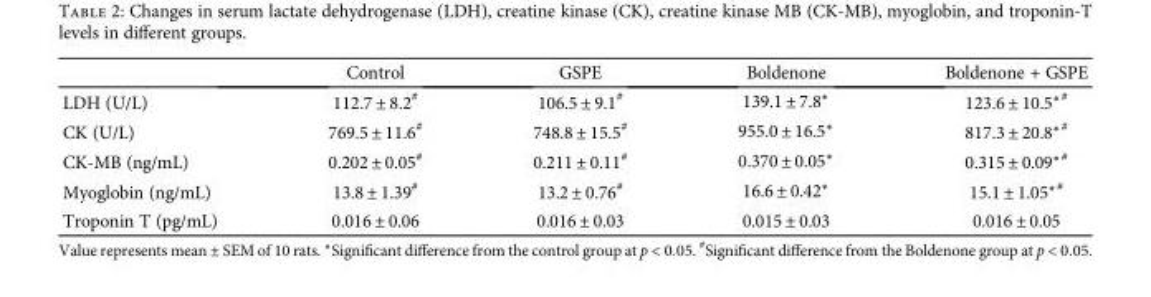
<table><thead><tr><td></td><td>Control</td><td>GSPE</td><td>Boldenone</td><td>Boldenone + GSPE</td></tr></thead><tbody><tr><td>LDH (U/L)</td><td>112.7 ± 8.2<sup>#</sup></td><td>106.5 ± 9.1<sup>#</sup></td><td>139.1 ± 7.8∗</td><td>123.6 ± 10.5<sup>∗#</sup></td></tr><tr><td>CK (U/L)</td><td>769.5 ± 11.6<sup>#</sup></td><td>748.8 ± 15.5<sup>#</sup></td><td>955.0 ± 16.5∗</td><td>817.3 ± 20.8<sup>∗#</sup></td></tr><tr><td>CK-MB (ng/mL)</td><td>0.202 ± 0.05<sup>#</sup></td><td>0.211 ± 0.11<sup>#</sup></td><td>0.370 ± 0.05∗</td><td>0.315 ± 0.09<sup>∗#</sup></td></tr><tr><td>Myoglobin (ng/mL)</td><td>13.8 ± 1.39<sup>#</sup></td><td>13.2 ± 0.76<sup>#</sup></td><td>16.6 ± 0.42∗</td><td>15.1 ± 1.05<sup>∗#</sup></td></tr><tr><td>Troponin T (pg/mL)</td><td>0.016 ± 0.06</td><td>0.016 ± 0.03</td><td>0.015 ± 0.03</td><td>0.016 ± 0.05</td></tr></tbody></table>